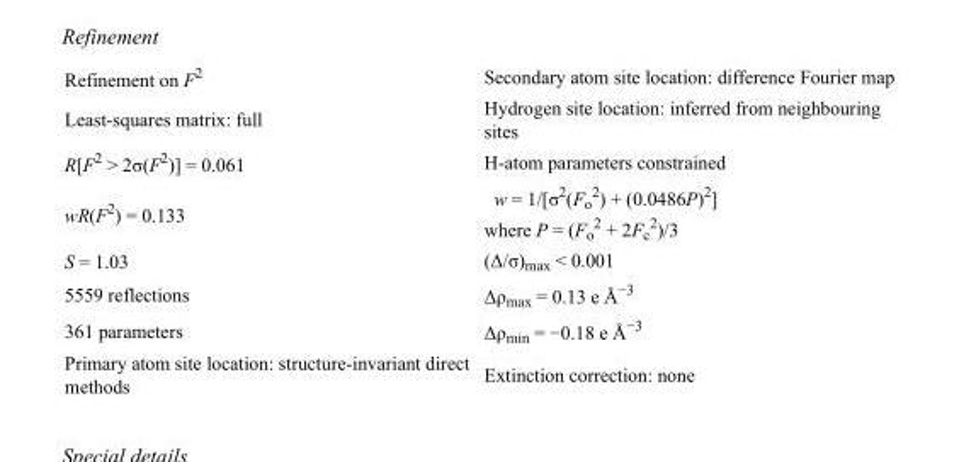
<table><tbody><tr><td>Refinement on F<sup>2</sup></td><td>Secondary atom site location: difference Fourier map</td></tr><tr><td>Least-squares matrix: full</td><td>Hydrogen site location: inferred from neighbouring sites</td></tr><tr><td>R[F<sup>2</sup> &gt; 2σ(F<sup>2</sup>)] = 0.061</td><td>H-atom parameters constrained</td></tr><tr><td>wR(F<sup>2</sup>) = 0.133</td><td>w = 1/[σ<sup>2</sup>(F<sub>o</sub> <sup>2</sup>) + (0.0486P)<sup>2</sup>] where P = (F<sub>o</sub> <sup>2</sup> + 2F<sub>c</sub> <sup>2</sup>)/3</td></tr><tr><td>S = 1.03</td><td>(Δ/σ)<sub>max</sub> &lt; 0.001</td></tr><tr><td>5559 reflections</td><td>Δρ<sub>max</sub> = 0.13 e Å<sup>−3</sup></td></tr><tr><td>361 parameters</td><td>Δρ<sub>min</sub> = −0.18 e Å<sup>−3</sup></td></tr><tr><td>Primary atom site location: structure-invariant direct methods</td><td>Extinction correction: none</td></tr></tbody></table>